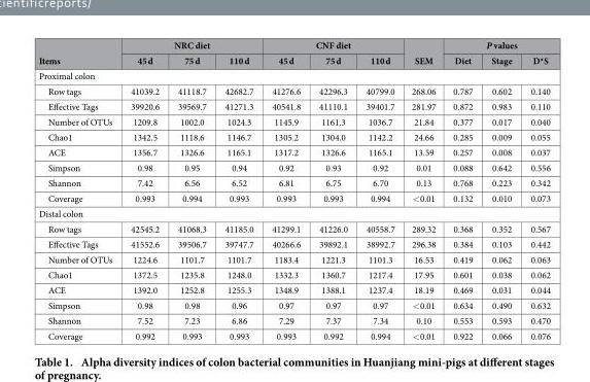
<table><thead><tr><td rowspan="2">Items</td><td colspan="3">NRC diet</td><td colspan="3">CNF diet</td><td rowspan="2">SEM</td><td colspan="3">P values</td></tr><tr><td>45 d</td><td>75 d</td><td>110 d</td><td>45 d</td><td>75 d</td><td>110 d</td><td>Diet</td><td>Stage</td><td>D*S</td></tr></thead><tbody><tr><td colspan="11">Proximal colon</td></tr><tr><td>Row tags</td><td>41039.2</td><td>41118.7</td><td>42682.7</td><td>41276.6</td><td>42296.3</td><td>40799.0</td><td>268.06</td><td>0.787</td><td>0.602</td><td>0.140</td></tr><tr><td>Effective Tags</td><td>39920.6</td><td>39569.7</td><td>41271.3</td><td>40541.8</td><td>41110.1</td><td>39401.7</td><td>281.97</td><td>0.872</td><td>0.983</td><td>0.110</td></tr><tr><td>Number of OTUs</td><td>1209.8</td><td>1002.0</td><td>1024.3</td><td>1145.9</td><td>1161.3</td><td>1036.7</td><td>21.84</td><td>0.377</td><td>0.017</td><td>0.040</td></tr><tr><td>Chao1</td><td>1342.5</td><td>1118.6</td><td>1146.7</td><td>1305.2</td><td>1304.0</td><td>1142.2</td><td>24.66</td><td>0.285</td><td>0.009</td><td>0.055</td></tr><tr><td>ACE</td><td>1356.7</td><td>1326.6</td><td>1165.1</td><td>1317.2</td><td>1326.6</td><td>1165.1</td><td>13.59</td><td>0.257</td><td>0.008</td><td>0.037</td></tr><tr><td>Simpson</td><td>0.98</td><td>0.95</td><td>0.94</td><td>0.92</td><td>0.93</td><td>0.92</td><td>0.01</td><td>0.088</td><td>0.642</td><td>0.556</td></tr><tr><td>Shannon</td><td>7.42</td><td>6.56</td><td>6.52</td><td>6.81</td><td>6.75</td><td>6.70</td><td>0.13</td><td>0.768</td><td>0.223</td><td>0.342</td></tr><tr><td>Coverage</td><td>0.993</td><td>0.994</td><td>0.993</td><td>0.993</td><td>0.993</td><td>0.994</td><td>&lt; 0.01</td><td>0.132</td><td>0.010</td><td>0.073</td></tr><tr><td colspan="11">Distal colon</td></tr><tr><td>Row tags</td><td>42545.2</td><td>41068.3</td><td>41185.0</td><td>41299.1</td><td>41226.0</td><td>40558.7</td><td>289.32</td><td>0.368</td><td>0.352</td><td>0.567</td></tr><tr><td>Effective Tags</td><td>41552.6</td><td>39506.7</td><td>39747.7</td><td>40266.6</td><td>39892.1</td><td>38992.7</td><td>296.38</td><td>0.384</td><td>0.103</td><td>0.442</td></tr><tr><td>Number of OTUs</td><td>1224.6</td><td>1101.7</td><td>1101.7</td><td>1183.4</td><td>1221.3</td><td>1101.3</td><td>16.53</td><td>0.419</td><td>0.062</td><td>0.063</td></tr><tr><td>Chao1</td><td>1372.5</td><td>1235.8</td><td>1248.0</td><td>1332.3</td><td>1360.7</td><td>1217.4</td><td>17.95</td><td>0.601</td><td>0.038</td><td>0.062</td></tr><tr><td>ACE</td><td>1392.0</td><td>1252.8</td><td>1255.3</td><td>1348.9</td><td>1388.1</td><td>1237.4</td><td>18.19</td><td>0.469</td><td>0.031</td><td>0.044</td></tr><tr><td>Simpson</td><td>0.98</td><td>0.98</td><td>0.96</td><td>0.97</td><td>0.97</td><td>0.97</td><td>&lt; 0.01</td><td>0.634</td><td>0.490</td><td>0.632</td></tr><tr><td>Shannon</td><td>7.52</td><td>7.23</td><td>6.86</td><td>7.29</td><td>7.37</td><td>7.34</td><td>0.10</td><td>0.553</td><td>0.593</td><td>0.470</td></tr><tr><td>Coverage</td><td>0.992</td><td>0.993</td><td>0.993</td><td>0.993</td><td>0.992</td><td>0.994</td><td>&lt; 0.01</td><td>0.922</td><td>0.066</td><td>0.076</td></tr></tbody></table>